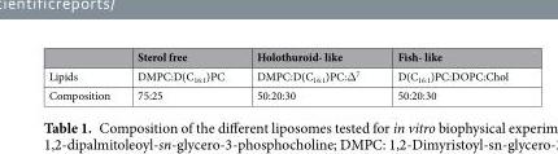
<table><thead><tr><td></td><td>Sterol free</td><td>Holothuroid- like</td><td>Fish- like</td></tr></thead><tbody><tr><td>Lipids</td><td>DMPC:D(C<sub>16:1</sub>)PC</td><td>DMPC:D(C<sub>16:1</sub>)PC:Δ<sup>7</sup></td><td>D(C<sub>16:1</sub>)PC:DOPC:Chol</td></tr><tr><td>Composition</td><td>75:25</td><td>50:20:30</td><td>50:20:30</td></tr></tbody></table>